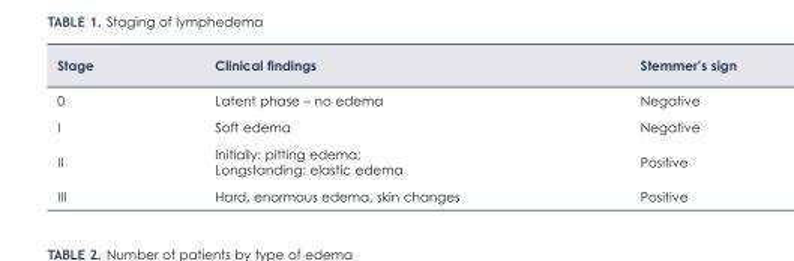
<table><thead><tr><td>Stage</td><td>Clinical findings</td><td>Stemmer’s sign</td></tr></thead><tbody><tr><td>0</td><td>Latent phase – no edema</td><td>Negative</td></tr><tr><td>I</td><td>Soft edema</td><td>Negative</td></tr><tr><td>II</td><td>Initially: pitting edema; Longstanding: elastic edema</td><td>Positive</td></tr><tr><td>III</td><td>Hard, enormous edema, skin changes</td><td>Positive</td></tr></tbody></table>